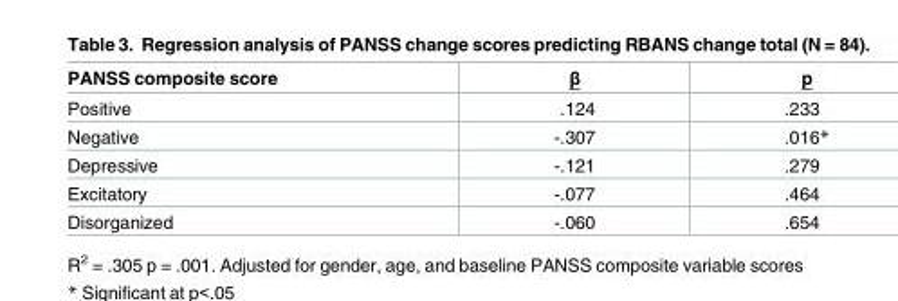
<table><thead><tr><td>PANSS composite score</td><td>β</td><td>p</td></tr></thead><tbody><tr><td>Positive</td><td>.124</td><td>.233</td></tr><tr><td>Negative</td><td>-.307</td><td>.016*</td></tr><tr><td>Depressive</td><td>-.121</td><td>.279</td></tr><tr><td>Excitatory</td><td>-.077</td><td>.464</td></tr><tr><td>Disorganized</td><td>-.060</td><td>.654</td></tr></tbody></table>